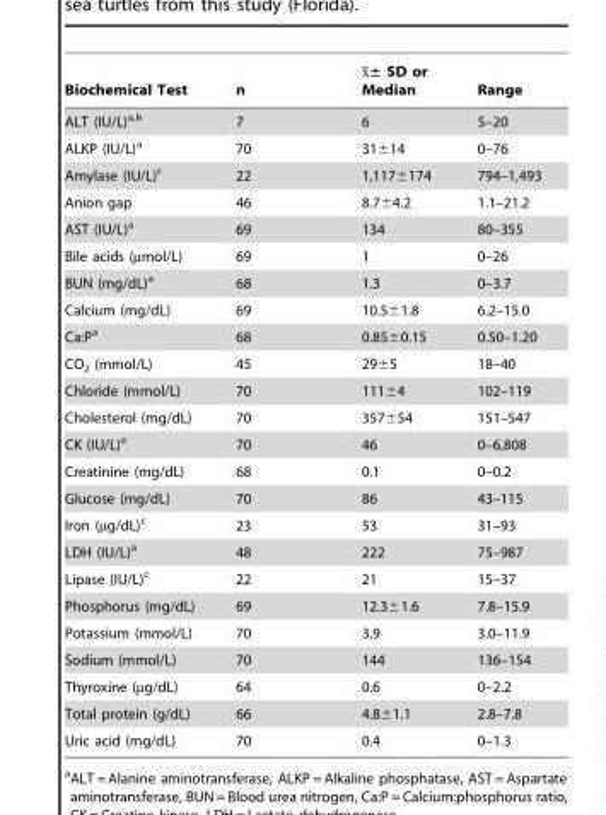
<table><thead><tr><td>Biochemical Test</td><td>n</td><td>x± SD or Median</td><td>Range</td></tr></thead><tbody><tr><td>ALT (IU/L)<sup>a,</sup>b</td><td>7</td><td>6</td><td>5–20</td></tr><tr><td>ALKP (IU/L)<sup>a</sup></td><td>70</td><td>31±14</td><td>0–76</td></tr><tr><td>Amylase (IU/L)<sup>c</sup></td><td>22</td><td>1,117±174</td><td>794–1,493</td></tr><tr><td>Anion gap</td><td>46</td><td>8.7±4.2</td><td>1.1–21.2</td></tr><tr><td>AST (IU/L)<sup>a</sup></td><td>69</td><td>134</td><td>80–355</td></tr><tr><td>Bile acids (µmol/L)</td><td>69</td><td>1</td><td>0–26</td></tr><tr><td>BUN (mg/dL)<sup>a</sup></td><td>68</td><td>1.3</td><td>0–3.7</td></tr><tr><td>Calcium (mg/dL)</td><td>69</td><td>10.5±1.8</td><td>6.2–15.0</td></tr><tr><td>Ca:Pa</td><td>68</td><td>0.85±0.15</td><td>0.50–1.20</td></tr><tr><td>CO<sub>2</sub> (mmol/L)</td><td>45</td><td>29±5</td><td>18–40</td></tr><tr><td>Chloride (mmol/L)</td><td>70</td><td>111±4</td><td>102–119</td></tr><tr><td>Cholesterol (mg/dL)</td><td>70</td><td>357±54</td><td>151–547</td></tr><tr><td>CK (IU/L)<sup>a</sup></td><td>70</td><td>46</td><td>0–6,808</td></tr><tr><td>Creatinine (mg/dL)</td><td>68</td><td>0.1</td><td>0–0.2</td></tr><tr><td>Glucose (mg/dL)</td><td>70</td><td>86</td><td>43–115</td></tr><tr><td>Iron (µg/dL)<sup>c</sup></td><td>23</td><td>53</td><td>31–93</td></tr><tr><td>LDH (IU/L)<sup>a</sup></td><td>48</td><td>222</td><td>75–987</td></tr><tr><td>Lipase (IU/L)<sup>c</sup></td><td>22</td><td>21</td><td>15–37</td></tr><tr><td>Phosphorus (mg/dL)</td><td>69</td><td>12.3±1.6</td><td>7.8–15.9</td></tr><tr><td>Potassium (mmol/L)</td><td>70</td><td>3.9</td><td>3.0–11.9</td></tr><tr><td>Sodium (mmol/L)</td><td>70</td><td>144</td><td>136–154</td></tr><tr><td>Thyroxine (µg/dL)</td><td>64</td><td>0.6</td><td>0–2.2</td></tr><tr><td>Total protein (g/dL)</td><td>66</td><td>4.8±1.1</td><td>2.8–7.8</td></tr><tr><td>Uric acid (mg/dL)</td><td>70</td><td>0.4</td><td>0–1.3</td></tr></tbody></table>